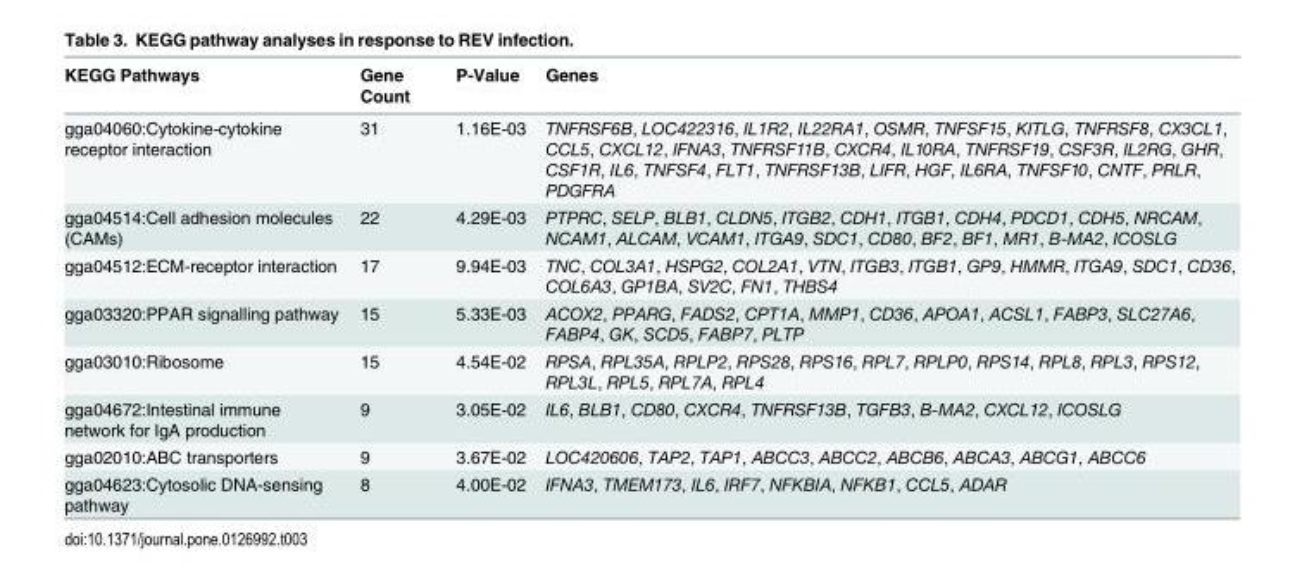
<table><thead><tr><td>KEGG Pathways</td><td>Gene Count</td><td>P-Value</td><td>Genes</td></tr></thead><tbody><tr><td>gga04060:Cytokine-cytokine receptor interaction</td><td>31</td><td>1.16E-03</td><td>TNFRSF6B, LOC422316, IL1R2, IL22RA1, OSMR, TNFSF15, KITLG, TNFRSF8, CX3CL1, CCL5, CXCL12, IFNA3, TNFRSF11B, CXCR4, IL10RA, TNFRSF19, CSF3R, IL2RG, GHR, CSF1R, IL6, TNFSF4, FLT1, TNFRSF13B, LIFR, HGF, IL6RA, TNFSF10, CNTF, PRLR, PDGFRA</td></tr><tr><td>gga04514:Cell adhesion molecules (CAMs)</td><td>22</td><td>4.29E-03</td><td>PTPRC, SELP, BLB1, CLDN5, ITGB2, CDH1, ITGB1, CDH4, PDCD1, CDH5, NRCAM, NCAM1, ALCAM, VCAM1, ITGA9, SDC1, CD80, BF2, BF1, MR1, B-MA2, ICOSLG</td></tr><tr><td>gga04512:ECM-receptor interaction</td><td>17</td><td>9.94E-03</td><td>TNC, COL3A1, HSPG2, COL2A1, VTN, ITGB3, ITGB1, GP9, HMMR, ITGA9, SDC1, CD36, COL6A3, GP1BA, SV2C, FN1, THBS4</td></tr><tr><td>gga03320:PPAR signalling pathway</td><td>15</td><td>5.33E-03</td><td>ACOX2, PPARG, FADS2, CPT1A, MMP1, CD36, APOA1, ACSL1, FABP3, SLC27A6, FABP4, GK, SCD5, FABP7, PLTP</td></tr><tr><td>gga03010:Ribosome</td><td>15</td><td>4.54E-02</td><td>RPSA, RPL35A, RPLP2, RPS28, RPS16, RPL7, RPLP0, RPS14, RPL8, RPL3, RPS12, RPL3L, RPL5, RPL7A, RPL4</td></tr><tr><td>gga04672:Intestinal immune network for IgA production</td><td>9</td><td>3.05E-02</td><td>IL6, BLB1, CD80, CXCR4, TNFRSF13B, TGFB3, B-MA2, CXCL12, ICOSLG</td></tr><tr><td>gga02010:ABC transporters</td><td>9</td><td>3.67E-02</td><td>LOC420606, TAP2, TAP1, ABCC3, ABCC2, ABCB6, ABCA3, ABCG1, ABCC6</td></tr><tr><td>gga04623:Cytosolic DNA-sensing pathway</td><td>8</td><td>4.00E-02</td><td>IFNA3, TMEM173, IL6, IRF7, NFKBIA, NFKB1, CCL5, ADAR</td></tr></tbody></table>